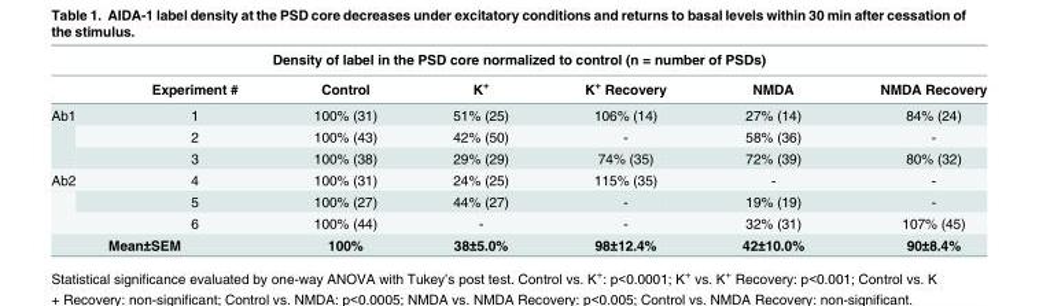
<table><thead><tr><td colspan="7">Density of label in the PSD core normalized to control (n = number of PSDs)</td></tr><tr><td></td><td>Experiment #</td><td>Control</td><td>K<sup>+</sup></td><td>K<sup>+</sup> Recovery</td><td>NMDA</td><td>NMDA Recovery</td></tr></thead><tbody><tr><td rowspan="3">Ab1</td><td>1</td><td>100% (31)</td><td>51% (25)</td><td>106% (14)</td><td>27% (14)</td><td>84% (24)</td></tr><tr><td>2</td><td>100% (43)</td><td>42% (50)</td><td>-</td><td>58% (36)</td><td>-</td></tr><tr><td>3</td><td>100% (38)</td><td>29% (29)</td><td>74% (35)</td><td>72% (39)</td><td>80% (32)</td></tr><tr><td rowspan="3">Ab2</td><td>4</td><td>100% (31)</td><td>24% (25)</td><td>115% (35)</td><td>-</td><td>-</td></tr><tr><td>5</td><td>100% (27)</td><td>44% (27)</td><td>-</td><td>19% (19)</td><td>-</td></tr><tr><td>6</td><td>100% (44)</td><td>-</td><td>-</td><td>32% (31)</td><td>107% (45)</td></tr><tr><td colspan="2">Mean±SEM</td><td>100%</td><td>38±5.0%</td><td>98±12.4%</td><td>42±10.0%</td><td>90±8.4%</td></tr></tbody></table>